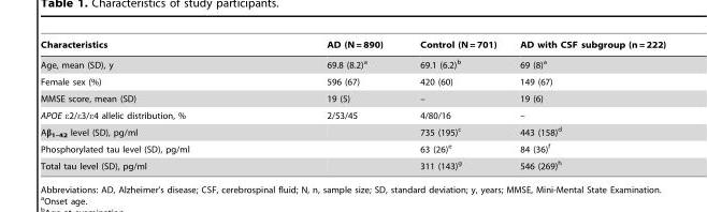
<table><thead><tr><td>Characteristics</td><td>AD (N = 890)</td><td>Control (N = 701)</td><td>AD with CSF subgroup (n = 222)</td></tr></thead><tbody><tr><td>Age, mean (SD), y</td><td>69.8 (8.2)<sup>a</sup></td><td>69.1 (6.2)<sup>b</sup></td><td>69 (8)<sup>a</sup></td></tr><tr><td>Female sex (%)</td><td>596 (67)</td><td>420 (60)</td><td>149 (67)</td></tr><tr><td>MMSE score, mean (SD)</td><td>19 (5)</td><td>–</td><td>19 (6)</td></tr><tr><td>APOE ε2/ε3/ε4 allelic distribution, %</td><td>2/53/45</td><td>4/80/16</td><td>–</td></tr><tr><td>Aβ<sub>1–42</sub> level (SD), pg/ml</td><td></td><td>735 (195)<sup>c</sup></td><td>443 (158)<sup>d</sup></td></tr><tr><td>Phosphorylated tau level (SD), pg/ml</td><td></td><td>63 (26)<sup>e</sup></td><td>84 (36)<sup>f</sup></td></tr><tr><td>Total tau level (SD), pg/ml</td><td></td><td>311 (143)<sup>g</sup></td><td>546 (269)<sup>h</sup></td></tr></tbody></table>